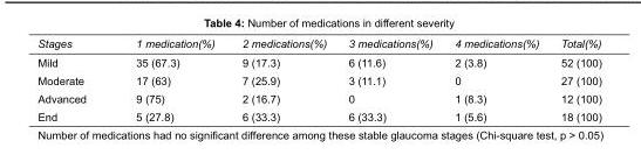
<table><tbody><tr><td>Stages</td><td>1 medication(%)</td><td>2 medications(%)</td><td>3 medications(%)</td><td>4 medications(%)</td><td>Total(%)</td></tr><tr><td>Mild</td><td>35 (67.3)</td><td>9 (17.3)</td><td>6 (11.6)</td><td>2 (3.8)</td><td>52 (100)</td></tr><tr><td>Moderate</td><td>17 (63)</td><td>7 (25.9)</td><td>3 (11.1)</td><td>0</td><td>27 (100)</td></tr><tr><td>Advanced</td><td>9 (75)</td><td>2 (16.7)</td><td>0</td><td>1 (8.3)</td><td>12 (100)</td></tr><tr><td>End</td><td>5 (27.8)</td><td>6 (33.3)</td><td>6 (33.3)</td><td>1 (5.6)</td><td>18 (100)</td></tr></tbody></table>